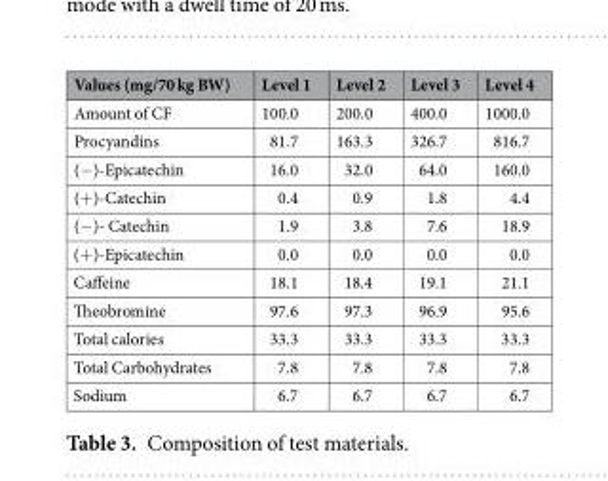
<table><thead><tr><td>Values (mg/70 kg BW)</td><td>Level 1</td><td>Level 2</td><td>Level 3</td><td>Level 4</td></tr></thead><tbody><tr><td>Amount of CF</td><td>100.0</td><td>200.0</td><td>400.0</td><td>1000.0</td></tr><tr><td>Procyandins</td><td>81.7</td><td>163.3</td><td>326.7</td><td>816.7</td></tr><tr><td>(−)-Epicatechin</td><td>16.0</td><td>32.0</td><td>64.0</td><td>160.0</td></tr><tr><td>(+)-Catechin</td><td>0.4</td><td>0.9</td><td>1.8</td><td>4.4</td></tr><tr><td>(−)- Catechin</td><td>1.9</td><td>3.8</td><td>7.6</td><td>18.9</td></tr><tr><td>(+)-Epicatechin</td><td>0.0</td><td>0.0</td><td>0.0</td><td>0.0</td></tr><tr><td>Caffeine</td><td>18.1</td><td>18.4</td><td>19.1</td><td>21.1</td></tr><tr><td>Theobromine</td><td>97.6</td><td>97.3</td><td>96.9</td><td>95.6</td></tr><tr><td>Total calories</td><td>33.3</td><td>33.3</td><td>33.3</td><td>33.3</td></tr><tr><td>Total Carbohydrates</td><td>7.8</td><td>7.8</td><td>7.8</td><td>7.8</td></tr><tr><td>Sodium</td><td>6.7</td><td>6.7</td><td>6.7</td><td>6.7</td></tr></tbody></table>